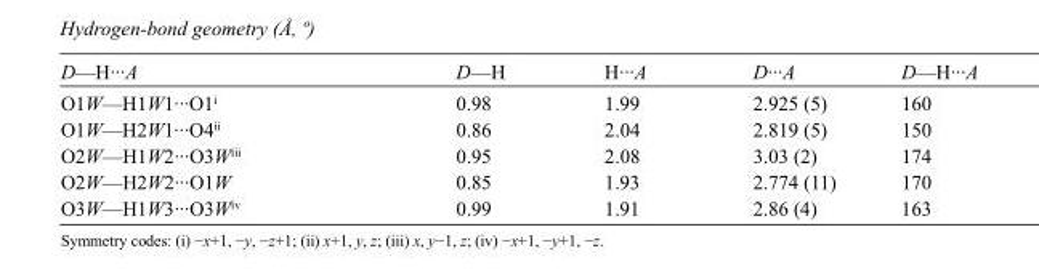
<table><tbody><tr><td>D—H···A</td><td>D—H</td><td>H···A</td><td>D···A</td><td>D—H···A</td></tr><tr><td>O1W—H1W1···O1<sup>i</sup></td><td>0.98</td><td>1.99</td><td>2.925 (5)</td><td>160</td></tr><tr><td>O1W—H2W1···O4<sup>ii</sup></td><td>0.86</td><td>2.04</td><td>2.819 (5)</td><td>150</td></tr><tr><td>O2W—H1W2···O3W<sup>iii</sup></td><td>0.95</td><td>2.08</td><td>3.03 (2)</td><td>174</td></tr><tr><td>O2W—H2W2···O1W</td><td>0.85</td><td>1.93</td><td>2.774 (11)</td><td>170</td></tr><tr><td>O3W—H1W3···O3W<sup>iv</sup></td><td>0.99</td><td>1.91</td><td>2.86 (4)</td><td>163</td></tr></tbody></table>